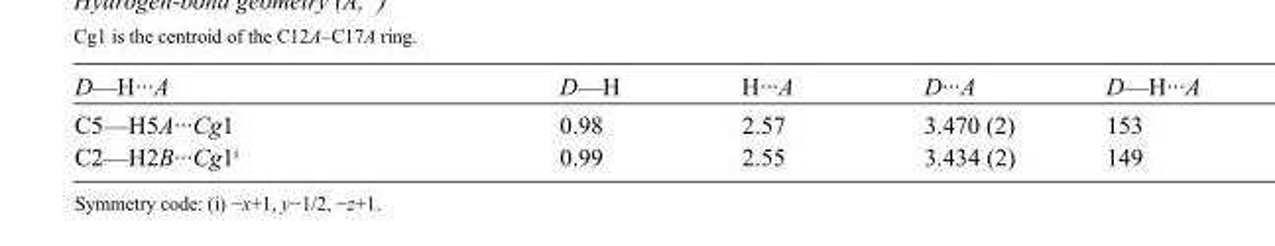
<table><tbody><tr><td>D—H···A</td><td>D—H</td><td>H···A</td><td>D···A</td><td>D—H···A</td></tr><tr><td>C5—H5A···Cg1</td><td>0.98</td><td>2.57</td><td>3.470 (2)</td><td>153</td></tr><tr><td>C2—H2B···Cg1<sup>i</sup></td><td>0.99</td><td>2.55</td><td>3.434 (2)</td><td>149</td></tr></tbody></table>